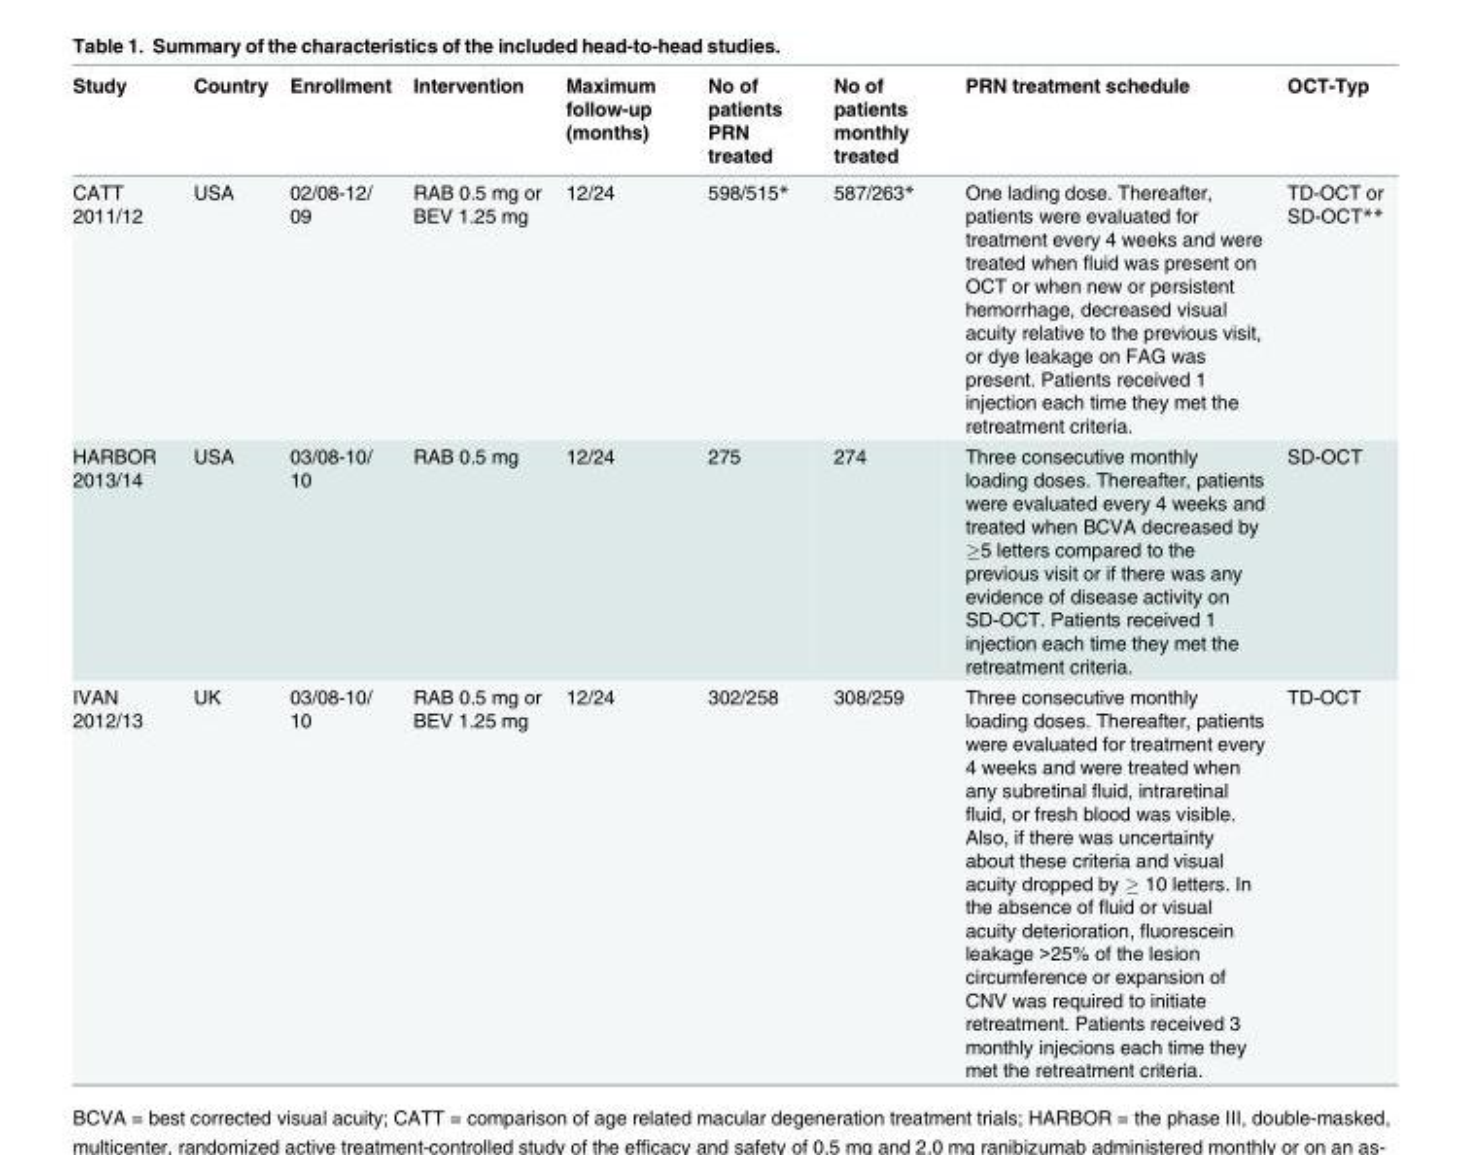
<table><thead><tr><td>Study</td><td>Country</td><td>Enrollment</td><td>Intervention</td><td>Maximum follow-up (months)</td><td>No of patients PRN treated</td><td>No of patients monthly treated</td><td>PRN treatment schedule</td><td>OCT-Typ</td></tr></thead><tbody><tr><td>CATT 2011/12</td><td>USA</td><td>02/08-12/ 09</td><td>RAB 0.5 mg or BEV 1.25 mg</td><td>12/24</td><td>598/515*</td><td>587/263*</td><td>One lading dose. Thereafter, patients were evaluated for treatment every 4 weeks and were treated when fluid was present on OCT or when new or persistent hemorrhage, decreased visual acuity relative to the previous visit, or dye leakage on FAG was present. Patients received 1 injection each time they met the retreatment criteria.</td><td>TD-OCT or SD-OCT**</td></tr><tr><td>HARBOR 2013/14</td><td>USA</td><td>03/08-10/ 10</td><td>RAB 0.5 mg</td><td>12/24</td><td>275</td><td>274</td><td>Three consecutive monthly loading doses. Thereafter, patients were evaluated every 4 weeks and treated when BCVA decreased by ≥5 letters compared to the previous visit or if there was any evidence of disease activity on SD-OCT. Patients received 1 injection each time they met the retreatment criteria.</td><td>SD-OCT</td></tr><tr><td>IVAN 2012/13</td><td>UK</td><td>03/08-10/ 10</td><td>RAB 0.5 mg or BEV 1.25 mg</td><td>12/24</td><td>302/258</td><td>308/259</td><td>Three consecutive monthly loading doses. Thereafter, patients were evaluated for treatment every 4 weeks and were treated when any subretinal fluid, intraretinal fluid, or fresh blood was visible. Also, if there was uncertainty about these criteria and visual acuity dropped by ≥ 10 letters. In the absence of fluid or visual acuity deterioration, fluorescein leakage &gt;25% of the lesion circumference or expansion of CNV was required to initiate retreatment. Patients received 3 monthly injecions each time they met the retreatment criteria.</td><td>TD-OCT</td></tr></tbody></table>